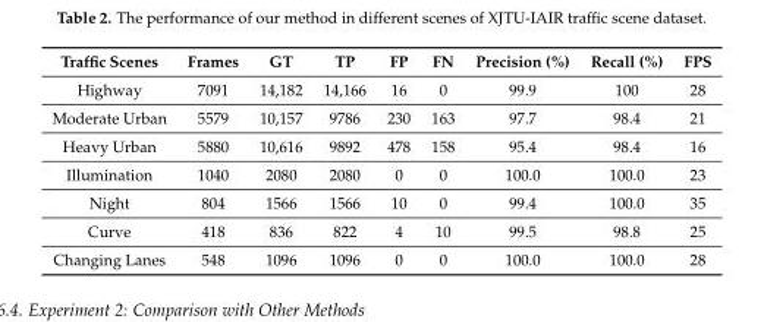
<table><thead><tr><td>Traffic Scenes</td><td>Frames</td><td>GT</td><td>TP</td><td>FP</td><td>FN</td><td>Precision (%)</td><td>Recall (%)</td><td>FPS</td></tr></thead><tbody><tr><td>Highway</td><td>7091</td><td>14,182</td><td>14,166</td><td>16</td><td>0</td><td>99.9</td><td>100</td><td>28</td></tr><tr><td>Moderate Urban</td><td>5579</td><td>10,157</td><td>9786</td><td>230</td><td>163</td><td>97.7</td><td>98.4</td><td>21</td></tr><tr><td>Heavy Urban</td><td>5880</td><td>10,616</td><td>9892</td><td>478</td><td>158</td><td>95.4</td><td>98.4</td><td>16</td></tr><tr><td>Illumination</td><td>1040</td><td>2080</td><td>2080</td><td>0</td><td>0</td><td>100.0</td><td>100.0</td><td>23</td></tr><tr><td>Night</td><td>804</td><td>1566</td><td>1566</td><td>10</td><td>0</td><td>99.4</td><td>100.0</td><td>35</td></tr><tr><td>Curve</td><td>418</td><td>836</td><td>822</td><td>4</td><td>10</td><td>99.5</td><td>98.8</td><td>25</td></tr><tr><td>Changing Lanes</td><td>548</td><td>1096</td><td>1096</td><td>0</td><td>0</td><td>100.0</td><td>100.0</td><td>28</td></tr></tbody></table>